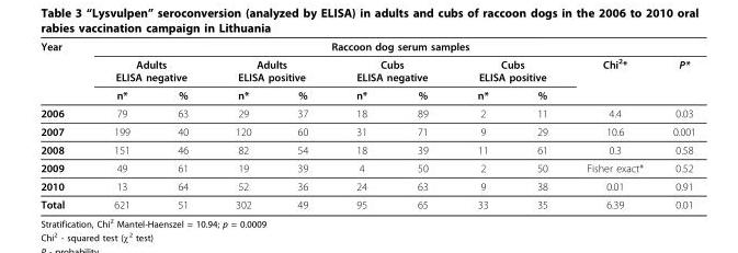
<table><thead><tr><td rowspan="3">Year</td><td colspan="10">Raccoon dog serum samples</td></tr><tr><td colspan="2">Adults ELISA negative</td><td colspan="2">Adults ELISA positive</td><td colspan="2">Cubs ELISA negative</td><td colspan="2">Cubs ELISA positive</td><td rowspan="2">Chi<sup>2</sup>*</td><td rowspan="2">P*</td></tr><tr><td>n*</td><td>%</td><td>n*</td><td>%</td><td>n*</td><td>%</td><td>n*</td><td>%</td></tr></thead><tbody><tr><td>2006</td><td>79</td><td>63</td><td>29</td><td>37</td><td>18</td><td>89</td><td>2</td><td>11</td><td>4.4</td><td>0.03</td></tr><tr><td>2007</td><td>199</td><td>40</td><td>120</td><td>60</td><td>31</td><td>71</td><td>9</td><td>29</td><td>10.6</td><td>0.001</td></tr><tr><td>2008</td><td>151</td><td>46</td><td>82</td><td>54</td><td>18</td><td>39</td><td>11</td><td>61</td><td>0.3</td><td>0.58</td></tr><tr><td>2009</td><td>49</td><td>61</td><td>19</td><td>39</td><td>4</td><td>50</td><td>2</td><td>50</td><td>Fisher exact*</td><td>0.52</td></tr><tr><td>2010</td><td>13</td><td>64</td><td>52</td><td>36</td><td>24</td><td>63</td><td>9</td><td>38</td><td>0.01</td><td>0.91</td></tr><tr><td>Total</td><td>621</td><td>51</td><td>302</td><td>49</td><td>95</td><td>65</td><td>33</td><td>35</td><td>6.39</td><td>0.01</td></tr></tbody></table>